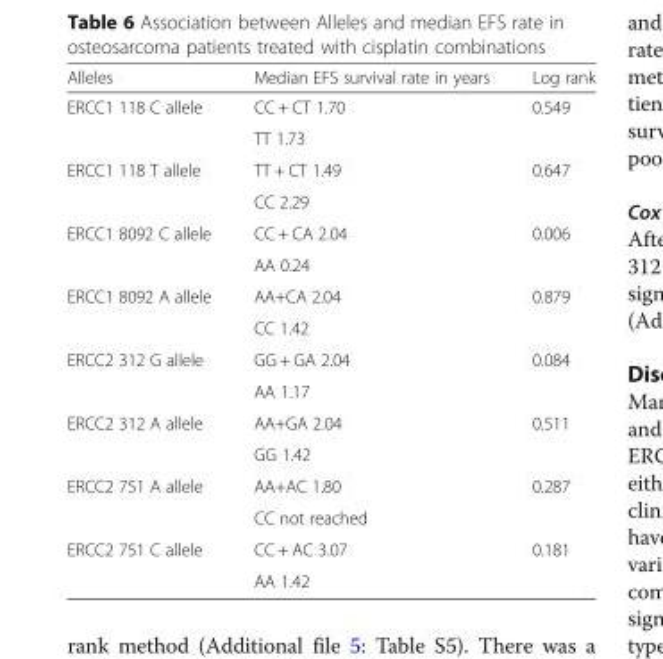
<table><thead><tr><td>Alleles</td><td>Median EFS survival rate in years</td><td>Log rank</td></tr></thead><tbody><tr><td rowspan="2">ERCC1 118 C allele</td><td>CC + CT 1.70</td><td rowspan="2">0.549</td></tr><tr><td>TT 1.73</td></tr><tr><td rowspan="2">ERCC1 118 T allele</td><td>TT + CT 1.49</td><td rowspan="2">0.647</td></tr><tr><td>CC 2.29</td></tr><tr><td rowspan="2">ERCC1 8092 C allele</td><td>CC + CA 2.04</td><td rowspan="2">0.006</td></tr><tr><td>AA 0.24</td></tr><tr><td rowspan="2">ERCC1 8092 A allele</td><td>AA+CA 2.04</td><td rowspan="2">0.879</td></tr><tr><td>CC 1.42</td></tr><tr><td rowspan="2">ERCC2 312 G allele</td><td>GG + GA 2.04</td><td rowspan="2">0.084</td></tr><tr><td>AA 1.17</td></tr><tr><td rowspan="2">ERCC2 312 A allele</td><td>AA+GA 2.04</td><td rowspan="2">0.511</td></tr><tr><td>GG 1.42</td></tr><tr><td rowspan="2">ERCC2 751 A allele</td><td>AA+AC 1.80</td><td rowspan="2">0.287</td></tr><tr><td>CC not reached</td></tr><tr><td rowspan="2">ERCC2 751 C allele</td><td>CC + AC 3.07</td><td rowspan="2">0.181</td></tr><tr><td>AA 1.42</td></tr></tbody></table>